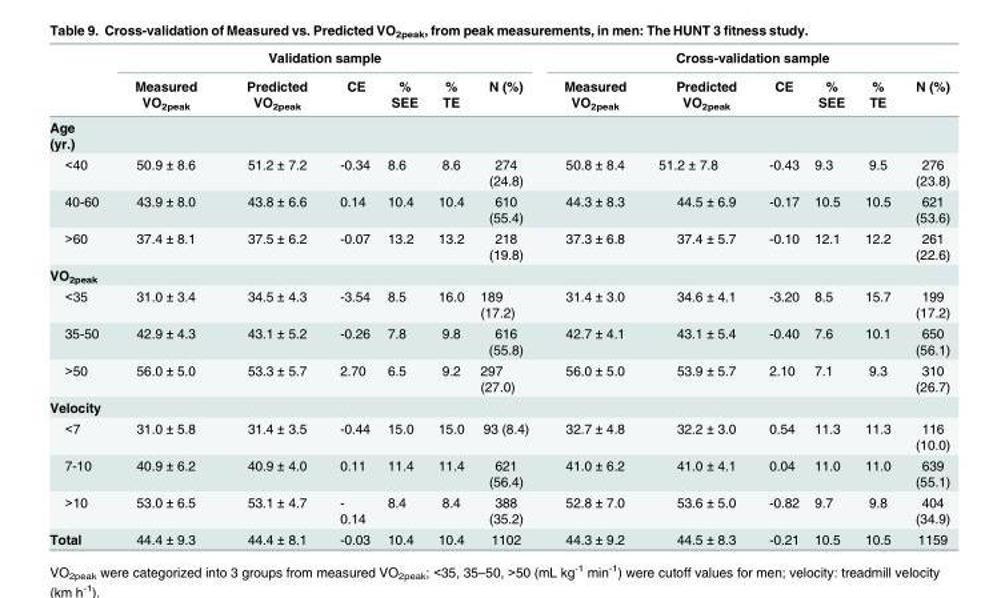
<table><thead><tr><td rowspan="2"></td><td colspan="6">Validation sample</td><td colspan="6">Cross-validation sample</td></tr><tr><td>Measured VO<sub>2peak</sub></td><td>Predicted VO<sub>2peak</sub></td><td>CE</td><td>% SEE</td><td>% TE</td><td>N (%)</td><td>Measured VO<sub>2peak</sub></td><td>Predicted VO<sub>2peak</sub></td><td>CE</td><td>% SEE</td><td>% TE</td><td>N (%)</td></tr></thead><tbody><tr><td colspan="13">Age (yr.)</td></tr><tr><td>&lt;40</td><td>50.9 ± 8.6</td><td>51.2 ± 7.2</td><td>-0.34</td><td>8.6</td><td>8.6</td><td>274 (24.8)</td><td>50.8 ± 8.4</td><td>51.2 ± 7.8</td><td>-0.43</td><td>9.3</td><td>9.5</td><td>276 (23.8)</td></tr><tr><td>40-60</td><td>43.9 ± 8.0</td><td>43.8 ± 6.6</td><td>0.14</td><td>10.4</td><td>10.4</td><td>610 (55.4)</td><td>44.3 ± 8.3</td><td>44.5 ± 6.9</td><td>-0.17</td><td>10.5</td><td>10.5</td><td>621 (53.6)</td></tr><tr><td>&gt;60</td><td>37.4 ± 8.1</td><td>37.5 ± 6.2</td><td>-0.07</td><td>13.2</td><td>13.2</td><td>218 (19.8)</td><td>37.3 ± 6.8</td><td>37.4 ± 5.7</td><td>-0.10</td><td>12.1</td><td>12.2</td><td>261 (22.6)</td></tr><tr><td colspan="13">VO<sub>2peak</sub></td></tr><tr><td>&lt;35</td><td>31.0 ± 3.4</td><td>34.5 ± 4.3</td><td>-3.54</td><td>8.5</td><td>16.0</td><td>189 (17.2)</td><td>31.4 ± 3.0</td><td>34.6 ± 4.1</td><td>-3.20</td><td>8.5</td><td>15.7</td><td>199 (17.2)</td></tr><tr><td>35-50</td><td>42.9 ± 4.3</td><td>43.1 ± 5.2</td><td>-0.26</td><td>7.8</td><td>9.8</td><td>616 (55.8)</td><td>42.7 ± 4.1</td><td>43.1 ± 5.4</td><td>-0.40</td><td>7.6</td><td>10.1</td><td>650 (56.1)</td></tr><tr><td>&gt;50</td><td>56.0 ± 5.0</td><td>53.3 ± 5.7</td><td>2.70</td><td>6.5</td><td>9.2</td><td>297 (27.0)</td><td>56.0 ± 5.0</td><td>53.9 ± 5.7</td><td>2.10</td><td>7.1</td><td>9.3</td><td>310 (26.7)</td></tr><tr><td colspan="13">Velocity</td></tr><tr><td>&lt;7</td><td>31.0 ± 5.8</td><td>31.4 ± 3.5</td><td>-0.44</td><td>15.0</td><td>15.0</td><td>93 (8.4)</td><td>32.7 ± 4.8</td><td>32.2 ± 3.0</td><td>0.54</td><td>11.3</td><td>11.3</td><td>116 (10.0)</td></tr><tr><td>7-10</td><td>40.9 ± 6.2</td><td>40.9 ± 4.0</td><td>0.11</td><td>11.4</td><td>11.4</td><td>621 (56.4)</td><td>41.0 ± 6.2</td><td>41.0 ± 4.1</td><td>0.04</td><td>11.0</td><td>11.0</td><td>639 (55.1)</td></tr><tr><td>&gt;10</td><td>53.0 ± 6.5</td><td>53.1 ± 4.7</td><td>- 0.14</td><td>8.4</td><td>8.4</td><td>388 (35.2)</td><td>52.8 ± 7.0</td><td>53.6 ± 5.0</td><td>-0.82</td><td>9.7</td><td>9.8</td><td>404 (34.9)</td></tr><tr><td>Total</td><td>44.4 ± 9.3</td><td>44.4 ± 8.1</td><td>-0.03</td><td>10.4</td><td>10.4</td><td>1102</td><td>44.3 ± 9.2</td><td>44.5 ± 8.3</td><td>-0.21</td><td>10.5</td><td>10.5</td><td>1159</td></tr></tbody></table>